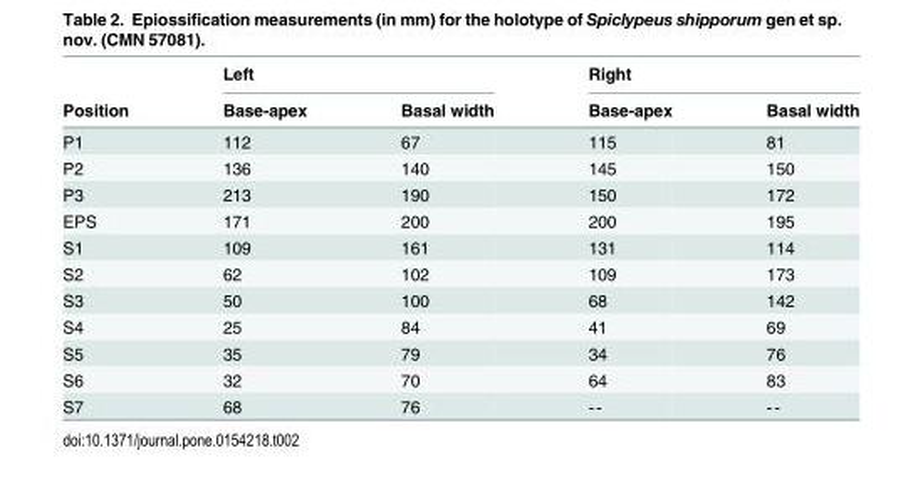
<table><thead><tr><td rowspan="2">Position</td><td colspan="2">Left</td><td colspan="2">Right</td></tr><tr><td>Base-apex</td><td>Basal width</td><td>Base-apex</td><td>Basal width</td></tr></thead><tbody><tr><td>P1</td><td>112</td><td>67</td><td>115</td><td>81</td></tr><tr><td>P2</td><td>136</td><td>140</td><td>145</td><td>150</td></tr><tr><td>P3</td><td>213</td><td>190</td><td>150</td><td>172</td></tr><tr><td>EPS</td><td>171</td><td>200</td><td>200</td><td>195</td></tr><tr><td>S1</td><td>109</td><td>161</td><td>131</td><td>114</td></tr><tr><td>S2</td><td>62</td><td>102</td><td>109</td><td>173</td></tr><tr><td>S3</td><td>50</td><td>100</td><td>68</td><td>142</td></tr><tr><td>S4</td><td>25</td><td>84</td><td>41</td><td>69</td></tr><tr><td>S5</td><td>35</td><td>79</td><td>34</td><td>76</td></tr><tr><td>S6</td><td>32</td><td>70</td><td>64</td><td>83</td></tr><tr><td>S7</td><td>68</td><td>76</td><td>--</td><td>--</td></tr></tbody></table>